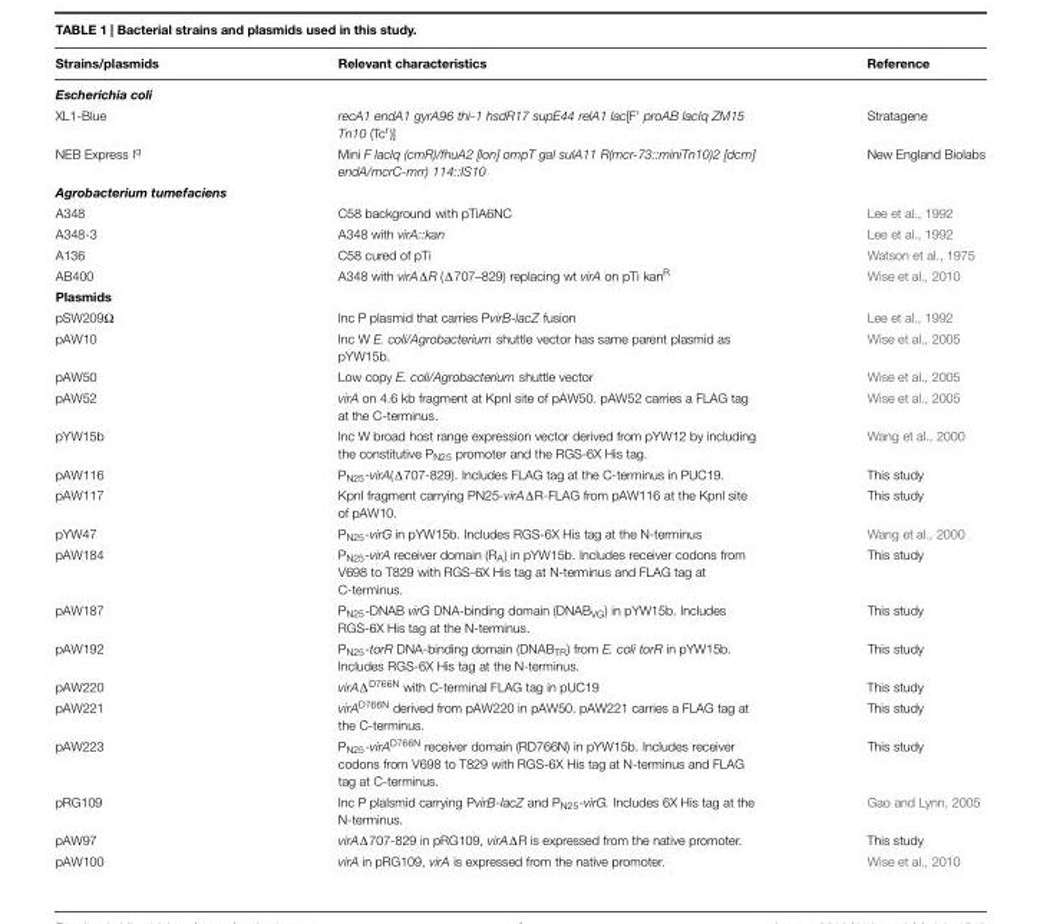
<table><thead><tr><td>Strains/plasmids</td><td>Relevant characteristics</td><td>Reference</td></tr></thead><tbody><tr><td colspan="3">Escherichia coli</td></tr><tr><td>XL1-Blue</td><td>recA1 endA1 gyrA96 thi-1 hsdR17 supE44 relA1 lac[F’ proAB lacIq ZM15 Tn10 (Tc<sup>r</sup>)]</td><td>Stratagene</td></tr><tr><td>NEB Express I<sup>q</sup></td><td>Mini F lacIq (cmR)/fhuA2 [lon] ompT gal sulA11 R(mcr-73::miniTn10)2 [dcm] endA/mcrC-mrr) 114::IS10</td><td>New England Biolabs</td></tr><tr><td colspan="3">Agrobacterium tumefaciens</td></tr><tr><td>A348</td><td>C58 background with pTiA6NC</td><td>Lee et al., 1992</td></tr><tr><td>A348-3</td><td>A348 with virA::kan</td><td>Lee et al., 1992</td></tr><tr><td>A136</td><td>C58 cured of pTi</td><td>Watson et al., 1975</td></tr><tr><td>AB400</td><td>A348 with virAΔR (Δ707–829) replacing wt virA on pTi kan<sup>R</sup></td><td>Wise et al., 2010</td></tr><tr><td colspan="3">Plasmids</td></tr><tr><td>pSW209Ω</td><td>Inc P plasmid that carries PvirB-lacZ fusion</td><td>Lee et al., 1992</td></tr><tr><td>pAW10</td><td>Inc W E. coli/Agrobacterium shuttle vector has same parent plasmid as pYW15b.</td><td>Wise et al., 2005</td></tr><tr><td>pAW50</td><td>Low copy E. coli/Agrobacterium shuttle vector</td><td>Wise et al., 2005</td></tr><tr><td>pAW52</td><td>virA on 4.6 kb fragment at KpnI site of pAW50. pAW52 carries a FLAG tag at the C-terminus.</td><td>Wise et al., 2005</td></tr><tr><td>pYW15b</td><td>Inc W broad host range expression vector derived from pYW12 by including the constitutive P<sub>N25</sub> promoter and the RGS-6X His tag.</td><td>Wang et al., 2000</td></tr><tr><td>pAW116</td><td>P<sub>N25</sub>-virA(Δ707-829). Includes FLAG tag at the C-terminus in PUC19.</td><td>This study</td></tr><tr><td>pAW117</td><td>KpnI fragment carrying PN25-virAΔR-FLAG from pAW116 at the KpnI site of pAW10.</td><td>This study</td></tr><tr><td>pYW47</td><td>P<sub>N25</sub>-virG in pYW15b. Includes RGS-6X His tag at the N-terminus</td><td>Wang et al., 2000</td></tr><tr><td>pAW184</td><td>P<sub>N25</sub>-virA receiver domain (R<sub>A</sub>) in pYW15b. Includes receiver codons from V698 to T829 with RGS-6X His tag at N-terminus and FLAG tag at C-terminus.</td><td>This study</td></tr><tr><td>pAW187</td><td>P<sub>N25</sub>-DNAB virG DNA-binding domain (DNAB<sub>VG</sub>) in pYW15b. Includes RGS-6X His tag at the N-terminus.</td><td>This study</td></tr><tr><td>pAW192</td><td>P<sub>N25</sub>-torR DNA-binding domain (DNAB<sub>TR</sub>) from E. coli torR in pYW15b. Includes RGS-6X His tag at the N-terminus.</td><td>This study</td></tr><tr><td>pAW220</td><td>virAΔ<sup>D766N</sup> with C-terminal FLAG tag in pUC19</td><td>This study</td></tr><tr><td>pAW221</td><td>virA<sup>D766N</sup> derived from pAW220 in pAW50. pAW221 carries a FLAG tag at the C-terminus.</td><td>This study</td></tr><tr><td>pAW223</td><td>P<sub>N25</sub>-virA<sup>D766N</sup> receiver domain (RD766N) in pYW15b. Includes receiver codons from V698 to T829 with RGS-6X His tag at N-terminus and FLAG tag at C-terminus.</td><td>This study</td></tr><tr><td>pRG109</td><td>Inc P plalsmid carrying PvirB-lacZ and P<sub>N25</sub>-virG. Includes 6X His tag at the N-terminus.</td><td>Gao and Lynn, 2005</td></tr><tr><td>pAW97</td><td>virAΔ707-829 in pRG109, virAΔR is expressed from the native promoter.</td><td>This study</td></tr><tr><td>pAW100</td><td>virA in pRG109, virA is expressed from the native promoter.</td><td>Wise et al., 2010</td></tr></tbody></table>